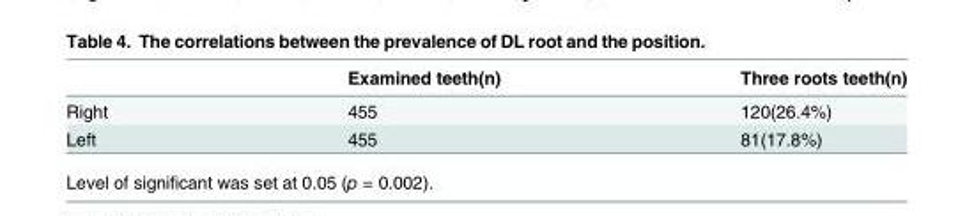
<table><thead><tr><td></td><td>Examined teeth(n)</td><td>Three roots teeth(n)</td></tr></thead><tbody><tr><td>Right</td><td>455</td><td>120(26.4%)</td></tr><tr><td>Left</td><td>455</td><td>81(17.8%)</td></tr></tbody></table>